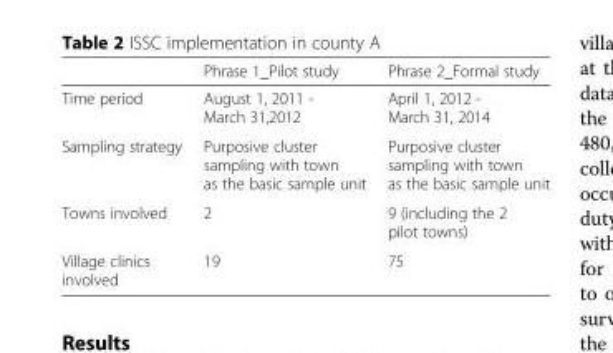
<table><thead><tr><td></td><td>Phrase 1_Pilot study</td><td>Phrase 2_Formal study</td></tr></thead><tbody><tr><td>Time period</td><td>August 1, 2011 - March 31,2012</td><td>April 1, 2012 - March 31, 2014</td></tr><tr><td>Sampling strategy</td><td>Purposive cluster sampling with town as the basic sample unit</td><td>Purposive cluster sampling with town as the basic sample unit</td></tr><tr><td>Towns involved</td><td>2</td><td>9 (including the 2 pilot towns)</td></tr><tr><td>Village clinics involved</td><td>19</td><td>75</td></tr></tbody></table>